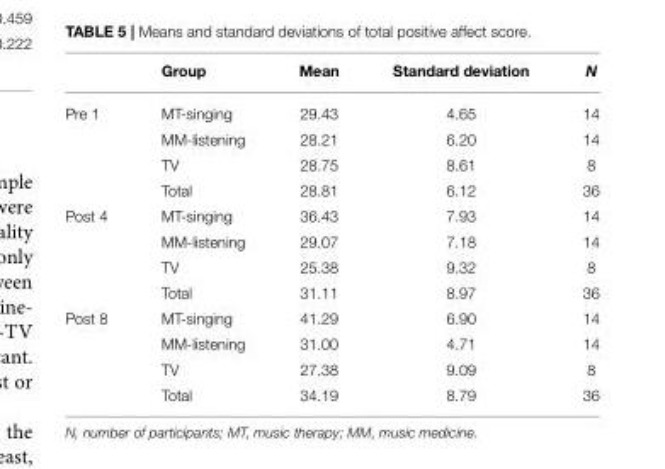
<table><thead><tr><td></td><td>Group</td><td>Mean</td><td>Standard deviation</td><td>N</td></tr></thead><tbody><tr><td rowspan="4">Pre 1</td><td>MT-singing</td><td>29.43</td><td>4.65</td><td>14</td></tr><tr><td>MM-listening</td><td>28.21</td><td>6.20</td><td>14</td></tr><tr><td>TV</td><td>28.75</td><td>8.61</td><td>8</td></tr><tr><td>Total</td><td>28.81</td><td>6.12</td><td>36</td></tr><tr><td rowspan="4">Post 4</td><td>MT-singing</td><td>36.43</td><td>7.93</td><td>14</td></tr><tr><td>MM-listening</td><td>29.07</td><td>7.18</td><td>14</td></tr><tr><td>TV</td><td>25.38</td><td>9.32</td><td>8</td></tr><tr><td>Total</td><td>31.11</td><td>8.97</td><td>36</td></tr><tr><td rowspan="4">Post 8</td><td>MT-singing</td><td>41.29</td><td>6.90</td><td>14</td></tr><tr><td>MM-listening</td><td>31.00</td><td>4.71</td><td>14</td></tr><tr><td>TV</td><td>27.38</td><td>9.09</td><td>8</td></tr><tr><td>Total</td><td>34.19</td><td>8.79</td><td>36</td></tr></tbody></table>